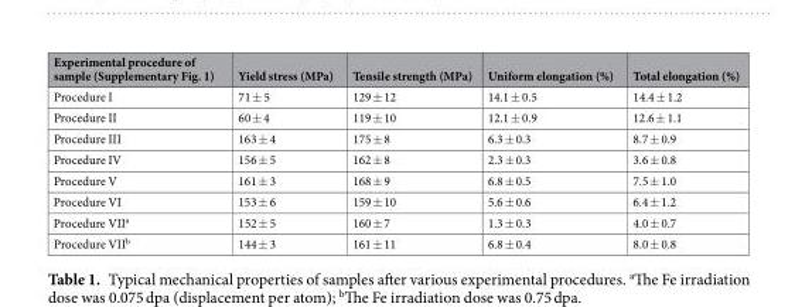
<table><thead><tr><td>Experimental procedure of sample (Supplementary Fig. 1)</td><td>Yield stress (MPa)</td><td>Tensile strength (MPa)</td><td>Uniform elongation (%)</td><td>Total elongation (%)</td></tr></thead><tbody><tr><td>Procedure I</td><td>71 ± 5</td><td>129 ± 12</td><td>14.1 ± 0.5</td><td>14.4 ± 1.2</td></tr><tr><td>Procedure II</td><td>60 ± 4</td><td>119 ± 10</td><td>12.1 ± 0.9</td><td>12.6 ± 1.1</td></tr><tr><td>Procedure III</td><td>163 ± 4</td><td>175 ± 8</td><td>6.3 ± 0.3</td><td>8.7 ± 0.9</td></tr><tr><td>Procedure IV</td><td>156 ± 5</td><td>162 ± 8</td><td>2.3 ± 0.3</td><td>3.6 ± 0.8</td></tr><tr><td>Procedure V</td><td>161 ± 3</td><td>168 ± 9</td><td>6.8 ± 0.5</td><td>7.5 ± 1.0</td></tr><tr><td>Procedure VI</td><td>153 ± 6</td><td>159 ± 10</td><td>5.6 ± 0.6</td><td>6.4 ± 1.2</td></tr><tr><td>Procedure VII<sup>a</sup></td><td>152 ± 5</td><td>160 ± 7</td><td>1.3 ± 0.3</td><td>4.0 ± 0.7</td></tr><tr><td>Procedure VII<sup>b</sup></td><td>144 ± 3</td><td>161 ± 11</td><td>6.8 ± 0.4</td><td>8.0 ± 0.8</td></tr></tbody></table>